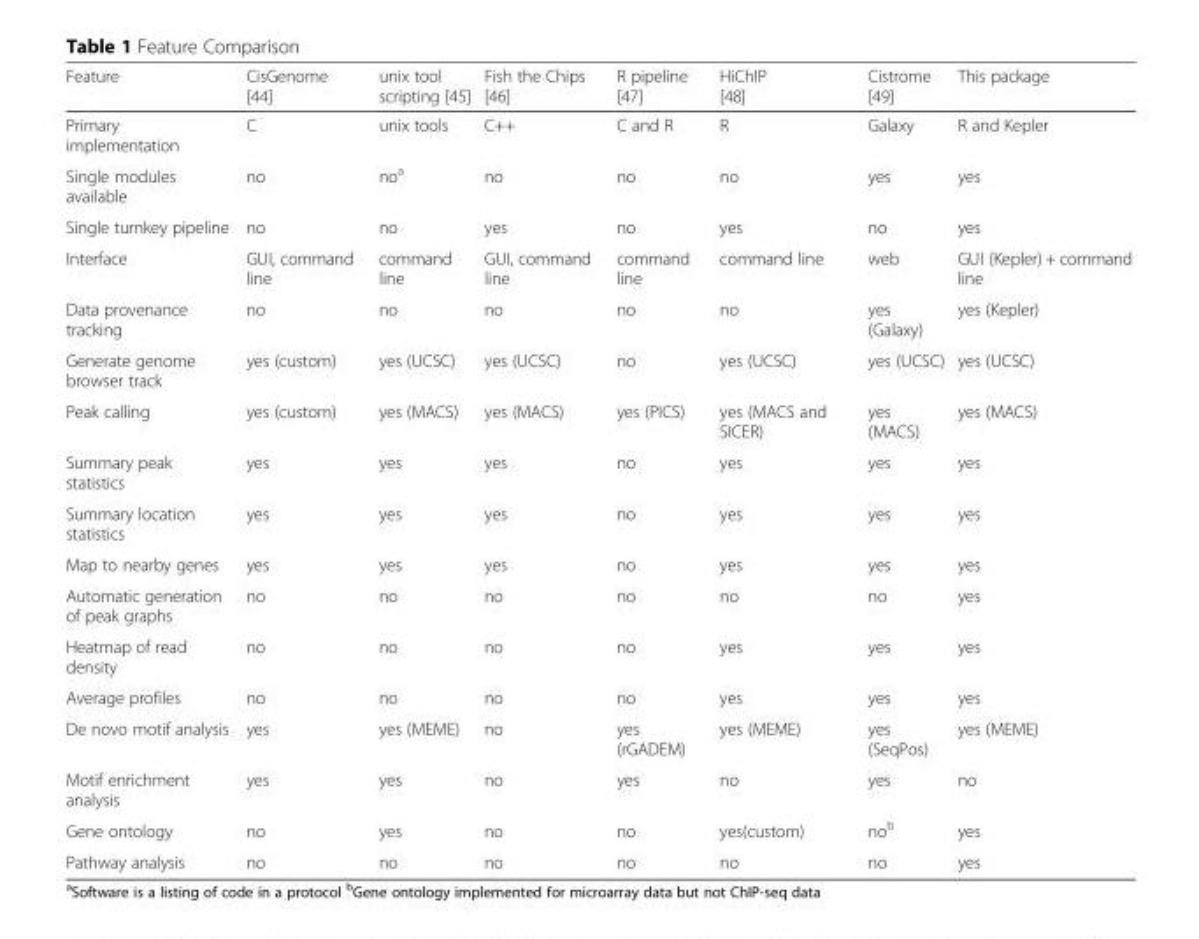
<table><thead><tr><td>Feature</td><td>CisGenome [44]</td><td>unix tool scripting [45]</td><td>Fish the Chips [46]</td><td>R pipeline [47]</td><td>HiChIP [48]</td><td>Cistrome [49]</td><td>This package</td></tr></thead><tbody><tr><td>Primary implementation</td><td>C</td><td>unix tools</td><td>C++</td><td>C and R</td><td>R</td><td>Galaxy</td><td>R and Kepler</td></tr><tr><td>Single modules available</td><td>no</td><td>no<sup>a</sup></td><td>no</td><td>no</td><td>no</td><td>yes</td><td>yes</td></tr><tr><td>Single turnkey pipeline</td><td>no</td><td>no</td><td>yes</td><td>no</td><td>yes</td><td>no</td><td>yes</td></tr><tr><td>Interface</td><td>GUI, command line</td><td>command line</td><td>GUI, command line</td><td>command line</td><td>command line</td><td>web</td><td>GUI (Kepler) + command line</td></tr><tr><td>Data provenance tracking</td><td>no</td><td>no</td><td>no</td><td>no</td><td>no</td><td>yes (Galaxy)</td><td>yes (Kepler)</td></tr><tr><td>Generate genome browser track</td><td>yes (custom)</td><td>yes (UCSC)</td><td>yes (UCSC)</td><td>no</td><td>yes (UCSC)</td><td>yes (UCSC)</td><td>yes (UCSC)</td></tr><tr><td>Peak calling</td><td>yes (custom)</td><td>yes (MACS)</td><td>yes (MACS)</td><td>yes (PICS)</td><td>yes (MACS and SICER)</td><td>yes (MACS)</td><td>yes (MACS)</td></tr><tr><td>Summary peak statistics</td><td>yes</td><td>yes</td><td>yes</td><td>no</td><td>yes</td><td>yes</td><td>yes</td></tr><tr><td>Summary location statistics</td><td>yes</td><td>yes</td><td>yes</td><td>no</td><td>yes</td><td>yes</td><td>yes</td></tr><tr><td>Map to nearby genes</td><td>yes</td><td>yes</td><td>yes</td><td>no</td><td>yes</td><td>yes</td><td>yes</td></tr><tr><td>Automatic generation of peak graphs</td><td>no</td><td>no</td><td>no</td><td>no</td><td>no</td><td>no</td><td>yes</td></tr><tr><td>Heatmap of read density</td><td>no</td><td>no</td><td>no</td><td>no</td><td>yes</td><td>yes</td><td>yes</td></tr><tr><td>Average profiles</td><td>no</td><td>no</td><td>no</td><td>no</td><td>yes</td><td>yes</td><td>yes</td></tr><tr><td>De novo motif analysis</td><td>yes</td><td>yes (MEME)</td><td>no</td><td>yes (rGADEM)</td><td>yes (MEME)</td><td>yes (SeqPos)</td><td>yes (MEME)</td></tr><tr><td>Motif enrichment analysis</td><td>yes</td><td>yes</td><td>no</td><td>yes</td><td>no</td><td>yes</td><td>no</td></tr><tr><td>Gene ontology</td><td>no</td><td>yes</td><td>no</td><td>no</td><td>yes(custom)</td><td>no<sup>b</sup></td><td>yes</td></tr><tr><td>Pathway analysis</td><td>no</td><td>no</td><td>no</td><td>no</td><td>no</td><td>no</td><td>yes</td></tr></tbody></table>